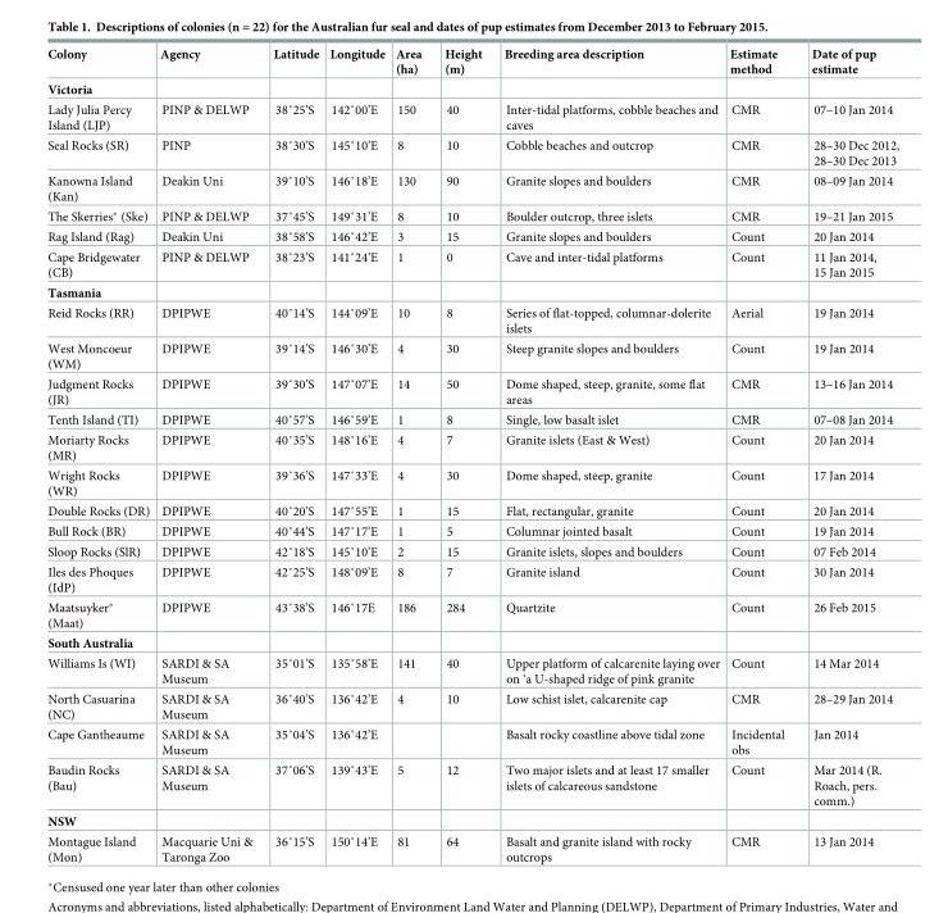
<table><thead><tr><td>Colony</td><td>Agency</td><td>Latitude</td><td>Longitude</td><td>Area (ha)</td><td>Height (m)</td><td>Breeding area description</td><td>Estimate method</td><td>Date of pup estimate</td></tr></thead><tbody><tr><td colspan="9">Victoria</td></tr><tr><td>Lady Julia Percy Island (LJP)</td><td>PINP &amp; DELWP</td><td>38˚25’S</td><td>142˚00’E</td><td>150</td><td>40</td><td>Inter-tidal platforms, cobble beaches and caves</td><td>CMR</td><td>07–10 Jan 2014</td></tr><tr><td>Seal Rocks (SR)</td><td>PINP</td><td>38˚30’S</td><td>145˚10’E</td><td>8</td><td>10</td><td>Cobble beaches and outcrop</td><td>CMR</td><td>28–30 Dec 2012, 28–30 Dec 2013</td></tr><tr><td>Kanowna Island (Kan)</td><td>Deakin Uni</td><td>39˚10’S</td><td>146˚18’E</td><td>130</td><td>90</td><td>Granite slopes and boulders</td><td>CMR</td><td>08–09 Jan 2014</td></tr><tr><td>The Skerries* (Ske)</td><td>PINP &amp; DELWP</td><td>37˚45’S</td><td>149˚31’E</td><td>8</td><td>10</td><td>Boulder outcrop, three islets</td><td>CMR</td><td>19–21 Jan 2015</td></tr><tr><td>Rag Island (Rag)</td><td>Deakin Uni</td><td>38˚58’S</td><td>146˚42’E</td><td>3</td><td>15</td><td>Granite slopes and boulders</td><td>Count</td><td>20 Jan 2014</td></tr><tr><td>Cape Bridgewater (CB)</td><td>PINP &amp; DELWP</td><td>38˚23’S</td><td>141˚24’E</td><td>1</td><td>0</td><td>Cave and inter-tidal platforms</td><td>Count</td><td>11 Jan 2014, 15 Jan 2015</td></tr><tr><td colspan="9">Tasmania</td></tr><tr><td>Reid Rocks (RR)</td><td>DPIPWE</td><td>40˚14’S</td><td>144˚09’E</td><td>10</td><td>8</td><td>Series of flat-topped, columnar-dolerite islets</td><td>Aerial</td><td>19 Jan 2014</td></tr><tr><td>West Moncoeur (WM)</td><td>DPIPWE</td><td>39˚14’S</td><td>146˚30’E</td><td>4</td><td>30</td><td>Steep granite slopes and boulders</td><td>Count</td><td>19 Jan 2014</td></tr><tr><td>Judgment Rocks (JR)</td><td>DPIPWE</td><td>39˚30’S</td><td>147˚07’E</td><td>14</td><td>50</td><td>Dome shaped, steep, granite, some flat areas</td><td>CMR</td><td>13–16 Jan 2014</td></tr><tr><td>Tenth Island (TI)</td><td>DPIPWE</td><td>40˚57’S</td><td>146˚59’E</td><td>1</td><td>8</td><td>Single, low basalt islet</td><td>CMR</td><td>07–08 Jan 2014</td></tr><tr><td>Moriarty Rocks (MR)</td><td>DPIPWE</td><td>40˚35’S</td><td>148˚16’E</td><td>4</td><td>7</td><td>Granite islets (East &amp; West)</td><td>Count</td><td>20 Jan 2014</td></tr><tr><td>Wright Rocks (WR)</td><td>DPIPWE</td><td>39˚36’S</td><td>147˚33’E</td><td>4</td><td>30</td><td>Dome shaped, steep, granite</td><td>Count</td><td>17 Jan 2014</td></tr><tr><td>Double Rocks (DR)</td><td>DPIPWE</td><td>40˚20’S</td><td>147˚55’E</td><td>1</td><td>15</td><td>Flat, rectangular, granite</td><td>Count</td><td>20 Jan 2014</td></tr><tr><td>Bull Rock (BR)</td><td>DPIPWE</td><td>40˚44’S</td><td>147˚17’E</td><td>1</td><td>5</td><td>Columnar jointed basalt</td><td>Count</td><td>19 Jan 2014</td></tr><tr><td>Sloop Rocks (SlR)</td><td>DPIPWE</td><td>42˚18’S</td><td>145˚10’E</td><td>2</td><td>15</td><td>Granite islets, slopes and boulders</td><td>Count</td><td>07 Feb 2014</td></tr><tr><td>Iles des Phoques (IdP)</td><td>DPIPWE</td><td>42˚25’S</td><td>148˚09’E</td><td>8</td><td>7</td><td>Granite island</td><td>Count</td><td>30 Jan 2014</td></tr><tr><td>Maatsuyker* (Maat)</td><td>DPIPWE</td><td>43˚38’S</td><td>146˚17E</td><td>186</td><td>284</td><td>Quartzite</td><td>Count</td><td>26 Feb 2015</td></tr><tr><td colspan="9">South Australia</td></tr><tr><td>Williams Is (WI)</td><td>SARDI &amp; SA Museum</td><td>35˚01’S</td><td>135˚58’E</td><td>141</td><td>40</td><td>Upper platform of calcarenite laying over on ‘a U-shaped ridge of pink granite</td><td>Count</td><td>14 Mar 2014</td></tr><tr><td>North Casuarina (NC)</td><td>SARDI &amp; SA Museum</td><td>36˚40’S</td><td>136˚42’E</td><td>4</td><td>10</td><td>Low schist islet, calcarenite cap</td><td>CMR</td><td>28–29 Jan 2014</td></tr><tr><td>Cape Gantheaume</td><td>SARDI &amp; SA Museum</td><td>35˚04’S</td><td>136˚42’E</td><td></td><td></td><td>Basalt rocky coastline above tidal zone</td><td>Incidental obs</td><td>Jan 2014</td></tr><tr><td>Baudin Rocks (Bau)</td><td>SARDI &amp; SA Museum</td><td>37˚06’S</td><td>139˚43’E</td><td>5</td><td>12</td><td>Two major islets and at least 17 smaller islets of calcareous sandstone</td><td>Count</td><td>Mar 2014 (R. Roach, pers. comm.)</td></tr><tr><td colspan="9">NSW</td></tr><tr><td>Montague Island (Mon)</td><td>Macquarie Uni &amp; Taronga Zoo</td><td>36˚15’S</td><td>150˚14’E</td><td>81</td><td>64</td><td>Basalt and granite island with rocky outcrops</td><td>CMR</td><td>13 Jan 2014</td></tr></tbody></table>